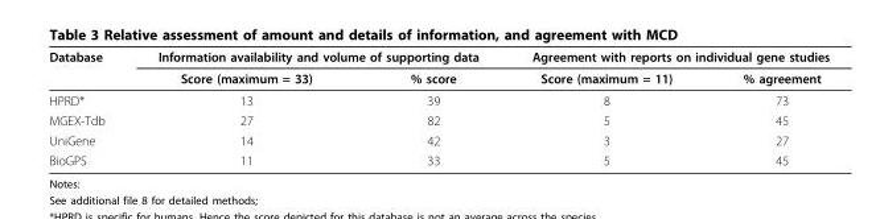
<table><thead><tr><td rowspan="2">Database</td><td colspan="2">Information availability and volume of supporting data</td><td colspan="2">Agreement with reports on individual gene studies</td></tr><tr><td>Score (maximum = 33)</td><td>% score</td><td>Score (maximum = 11)</td><td>% agreement</td></tr></thead><tbody><tr><td>HPRD*</td><td>13</td><td>39</td><td>8</td><td>73</td></tr><tr><td>MGEX-Tdb</td><td>27</td><td>82</td><td>5</td><td>45</td></tr><tr><td>UniGene</td><td>14</td><td>42</td><td>3</td><td>27</td></tr><tr><td>BioGPS</td><td>11</td><td>33</td><td>5</td><td>45</td></tr></tbody></table>